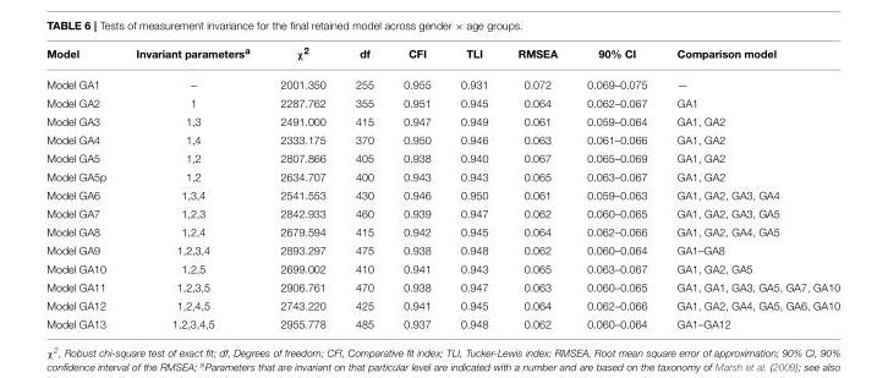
<table><thead><tr><td>Model</td><td>Invariant parameters<sup>a</sup></td><td>χ<sup>2</sup></td><td>df</td><td>CFI</td><td>TLI</td><td>RMSEA</td><td>90% CI</td><td>Comparison model</td></tr></thead><tbody><tr><td>Model GA1</td><td>–</td><td>2001.350</td><td>255</td><td>0.955</td><td>0.931</td><td>0.072</td><td>0.069–0.075</td><td>—</td></tr><tr><td>Model GA2</td><td>1</td><td>2287.762</td><td>355</td><td>0.951</td><td>0.945</td><td>0.064</td><td>0.062–0.067</td><td>GA1</td></tr><tr><td>Model GA3</td><td>1,3</td><td>2491.000</td><td>415</td><td>0.947</td><td>0.949</td><td>0.061</td><td>0.059–0.064</td><td>GA1, GA2</td></tr><tr><td>Model GA4</td><td>1,4</td><td>2333.175</td><td>370</td><td>0.950</td><td>0.946</td><td>0.063</td><td>0.061–0.066</td><td>GA1, GA2</td></tr><tr><td>Model GA5</td><td>1,2</td><td>2807.866</td><td>405</td><td>0.938</td><td>0.940</td><td>0.067</td><td>0.065–0.069</td><td>GA1, GA2</td></tr><tr><td>Model GA5p</td><td>1,2</td><td>2634.707</td><td>400</td><td>0.943</td><td>0.943</td><td>0.065</td><td>0.063–0.067</td><td>GA1, GA2</td></tr><tr><td>Model GA6</td><td>1,3,4</td><td>2541.553</td><td>430</td><td>0.946</td><td>0.950</td><td>0.061</td><td>0.059–0.063</td><td>GA1, GA2, GA3, GA4</td></tr><tr><td>Model GA7</td><td>1,2,3</td><td>2842.933</td><td>460</td><td>0.939</td><td>0.947</td><td>0.062</td><td>0.060–0.065</td><td>GA1, GA2, GA3, GA5</td></tr><tr><td>Model GA8</td><td>1,2,4</td><td>2679.594</td><td>415</td><td>0.942</td><td>0.945</td><td>0.064</td><td>0.062–0.066</td><td>GA1, GA2, GA4, GA5</td></tr><tr><td>Model GA9</td><td>1,2,3,4</td><td>2893.297</td><td>475</td><td>0.938</td><td>0.948</td><td>0.062</td><td>0.060–0.064</td><td>GA1–GA8</td></tr><tr><td>Model GA10</td><td>1,2,5</td><td>2699.002</td><td>410</td><td>0.941</td><td>0.943</td><td>0.065</td><td>0.063–0.067</td><td>GA1, GA2, GA5</td></tr><tr><td>Model GA11</td><td>1,2,3,5</td><td>2906.761</td><td>470</td><td>0.938</td><td>0.947</td><td>0.063</td><td>0.060–0.065</td><td>GA1, GA1, GA3, GA5, GA7, GA10</td></tr><tr><td>Model GA12</td><td>1,2,4,5</td><td>2743.220</td><td>425</td><td>0.941</td><td>0.945</td><td>0.064</td><td>0.062–0.066</td><td>GA1, GA2, GA4, GA5, GA6, GA10</td></tr><tr><td>Model GA13</td><td>1,2,3,4,5</td><td>2955.778</td><td>485</td><td>0.937</td><td>0.948</td><td>0.062</td><td>0.060–0.064</td><td>GA1–GA12</td></tr></tbody></table>